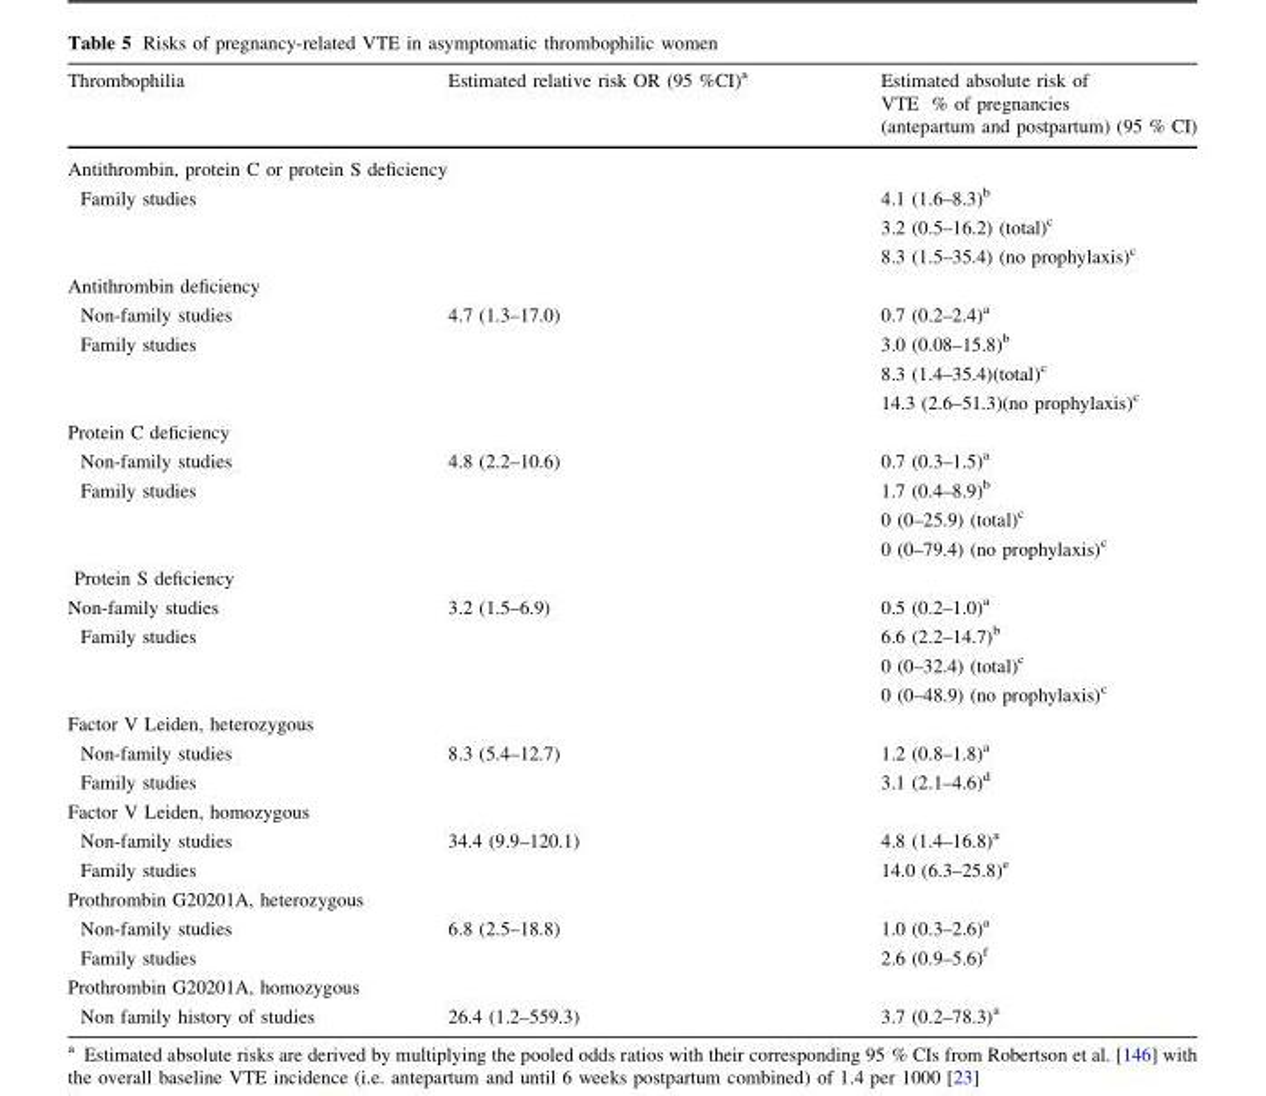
<table><thead><tr><td>Thrombophilia</td><td>Estimated relative risk OR (95 %CI)<sup>a</sup></td><td>Estimated absolute risk of VTE % of pregnancies (antepartum and postpartum) (95 % CI)</td></tr></thead><tbody><tr><td colspan="3">Antithrombin, protein C or protein S deficiency</td></tr><tr><td>Family studies</td><td></td><td>4.1 (1.6–8.3)<sup>b</sup> 3.2 (0.5–16.2) (total)<sup>c</sup> 8.3 (1.5–35.4) (no prophylaxis)<sup>c</sup></td></tr><tr><td colspan="3">Antithrombin deficiency</td></tr><tr><td>Non-family studies</td><td>4.7 (1.3–17.0)</td><td>0.7 (0.2–2.4)<sup>a</sup></td></tr><tr><td>Family studies</td><td></td><td>3.0 (0.08–15.8)<sup>b</sup> 8.3 (1.4–35.4)(total)<sup>c</sup> 14.3 (2.6–51.3)(no prophylaxis)<sup>c</sup></td></tr><tr><td colspan="3">Protein C deficiency</td></tr><tr><td>Non-family studies</td><td>4.8 (2.2–10.6)</td><td>0.7 (0.3–1.5)<sup>a</sup></td></tr><tr><td>Family studies</td><td></td><td>1.7 (0.4–8.9)<sup>b</sup> 0 (0–25.9) (total)<sup>c</sup> 0 (0–79.4) (no prophylaxis)<sup>c</sup></td></tr><tr><td colspan="3">Protein S deficiency</td></tr><tr><td>Non-family studies</td><td>3.2 (1.5–6.9)</td><td>0.5 (0.2–1.0)<sup>a</sup></td></tr><tr><td>Family studies</td><td></td><td>6.6 (2.2–14.7)<sup>b</sup> 0 (0–32.4) (total)<sup>c</sup> 0 (0–48.9) (no prophylaxis)<sup>c</sup></td></tr><tr><td colspan="3">Factor V Leiden, heterozygous</td></tr><tr><td>Non-family studies</td><td>8.3 (5.4–12.7)</td><td>1.2 (0.8–1.8)<sup>a</sup></td></tr><tr><td>Family studies</td><td></td><td>3.1 (2.1–4.6)<sup>d</sup></td></tr><tr><td colspan="3">Factor V Leiden, homozygous</td></tr><tr><td>Non-family studies</td><td>34.4 (9.9–120.1)</td><td>4.8 (1.4–16.8)<sup>a</sup></td></tr><tr><td>Family studies</td><td></td><td>14.0 (6.3–25.8)<sup>e</sup></td></tr><tr><td colspan="3">Prothrombin G20201A, heterozygous</td></tr><tr><td>Non-family studies</td><td>6.8 (2.5–18.8)</td><td>1.0 (0.3–2.6)<sup>a</sup></td></tr><tr><td>Family studies</td><td></td><td>2.6 (0.9–5.6)<sup>f</sup></td></tr><tr><td colspan="3">Prothrombin G20201A, homozygous</td></tr><tr><td>Non family history of studies</td><td>26.4 (1.2–559.3)</td><td>3.7 (0.2–78.3)<sup>a</sup></td></tr></tbody></table>